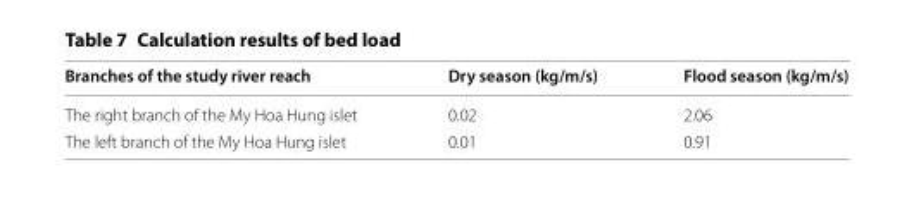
<table><thead><tr><td>Branches of the study river reach</td><td>Dry season (kg/m/s)</td><td>Flood season (kg/m/s)</td></tr></thead><tbody><tr><td>The right branch of the My Hoa Hung islet</td><td>0.02</td><td>2.06</td></tr><tr><td>The left branch of the My Hoa Hung islet</td><td>0.01</td><td>0.91</td></tr></tbody></table>